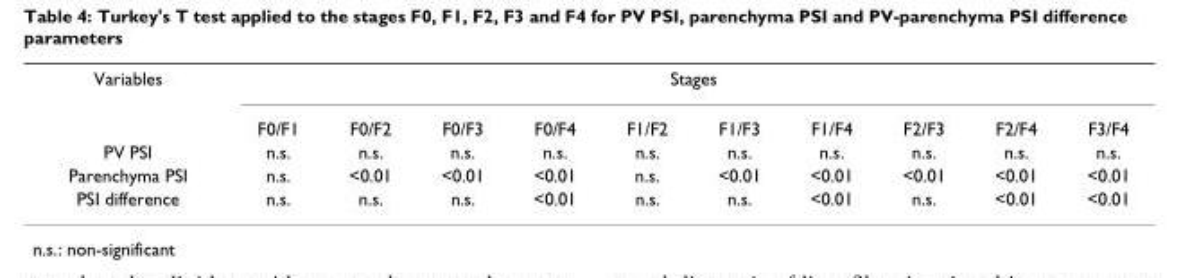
<table><tbody><tr><td rowspan="2">Variables</td><td colspan="10">Stages</td></tr><tr><td>F0/F1</td><td>F0/F2</td><td>F0/F3</td><td>F0/F4</td><td>F1/F2</td><td>F1/F3</td><td>F1/F4</td><td>F2/F3</td><td>F2/F4</td><td>F3/F4</td></tr><tr><td>PV PSI</td><td>n.s.</td><td>n.s.</td><td>n.s.</td><td>n.s.</td><td>n.s.</td><td>n.s.</td><td>n.s.</td><td>n.s.</td><td>n.s.</td><td>n.s.</td></tr><tr><td>Parenchyma PSI</td><td>n.s.</td><td>&lt;0.01</td><td>&lt;0.01</td><td>&lt;0.01</td><td>n.s.</td><td>&lt;0.01</td><td>&lt;0.01</td><td>&lt;0.01</td><td>&lt;0.01</td><td>&lt;0.01</td></tr><tr><td>PSI difference</td><td>n.s.</td><td>n.s.</td><td>n.s.</td><td>&lt;0.01</td><td>n.s.</td><td>n.s.</td><td>&lt;0.01</td><td>n.s.</td><td>&lt;0.01</td><td>&lt;0.01</td></tr></tbody></table>